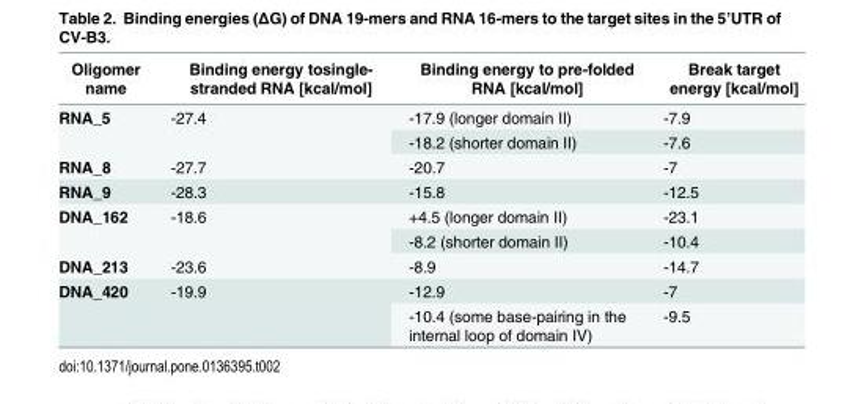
<table><thead><tr><td>Oligomer name</td><td>Binding energy tosingle- stranded RNA [kcal/mol]</td><td>Binding energy to pre-folded RNA [kcal/mol]</td><td>Break target energy [kcal/mol]</td></tr></thead><tbody><tr><td rowspan="2">RNA_5</td><td rowspan="2">-27.4</td><td>-17.9 (longer domain II)</td><td>-7.9</td></tr><tr><td>-18.2 (shorter domain II)</td><td>-7.6</td></tr><tr><td>RNA_8</td><td>-27.7</td><td>-20.7</td><td>-7</td></tr><tr><td>RNA_9</td><td>-28.3</td><td>-15.8</td><td>-12.5</td></tr><tr><td rowspan="2">DNA_162</td><td rowspan="2">-18.6</td><td>+4.5 (longer domain II)</td><td>-23.1</td></tr><tr><td>-8.2 (shorter domain II)</td><td>-10.4</td></tr><tr><td>DNA_213</td><td>-23.6</td><td>-8.9</td><td>-14.7</td></tr><tr><td rowspan="2">DNA_420</td><td rowspan="2">-19.9</td><td>-12.9</td><td>-7</td></tr><tr><td>-10.4 (some base-pairing in the internal loop of domain IV)</td><td>-9.5</td></tr></tbody></table>